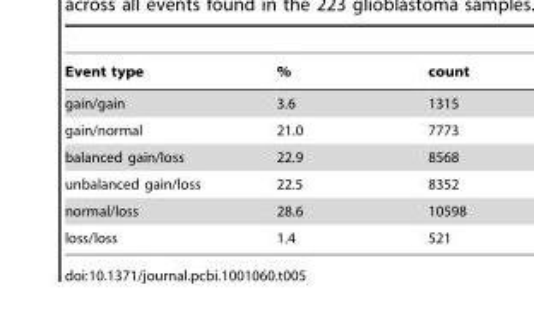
<table><thead><tr><td>Event type</td><td>%</td><td>count</td></tr></thead><tbody><tr><td>gain/gain</td><td>3.6</td><td>1315</td></tr><tr><td>gain/normal</td><td>21.0</td><td>7773</td></tr><tr><td>balanced gain/loss</td><td>22.9</td><td>8568</td></tr><tr><td>unbalanced gain/loss</td><td>22.5</td><td>8352</td></tr><tr><td>normal/loss</td><td>28.6</td><td>10598</td></tr><tr><td>loss/loss</td><td>1.4</td><td>521</td></tr></tbody></table>